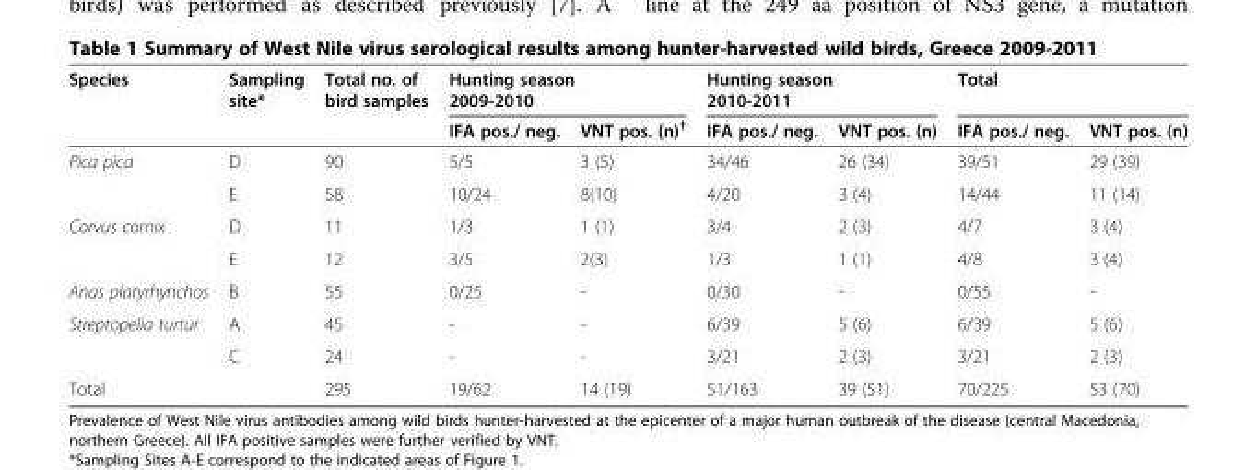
<table><thead><tr><td rowspan="2">Species</td><td rowspan="2">Sampling site*</td><td rowspan="2">Total no. of bird samples</td><td colspan="2">Hunting season 2009-2010</td><td colspan="2">Hunting season 2010-2011</td><td colspan="2">Total</td></tr><tr><td>IFA pos./ neg.</td><td>VNT pos. (n)<sup>†</sup></td><td>IFA pos./ neg.</td><td>VNT pos. (n)</td><td>IFA pos./ neg.</td><td>VNT pos. (n)</td></tr></thead><tbody><tr><td rowspan="2">Pica pica</td><td>D</td><td>90</td><td>5/5</td><td>3 (5)</td><td>34/46</td><td>26 (34)</td><td>39/51</td><td>29 (39)</td></tr><tr><td>E</td><td>58</td><td>10/24</td><td>8(10)</td><td>4/20</td><td>3 (4)</td><td>14/44</td><td>11 (14)</td></tr><tr><td rowspan="2">Corvus cornix</td><td>D</td><td>11</td><td>1/3</td><td>1 (1)</td><td>3/4</td><td>2 (3)</td><td>4/7</td><td>3 (4)</td></tr><tr><td>E</td><td>12</td><td>3/5</td><td>2(3)</td><td>1/3</td><td>1 (1)</td><td>4/8</td><td>3 (4)</td></tr><tr><td>Anas platyrhynchos</td><td>B</td><td>55</td><td>0/25</td><td>-</td><td>0/30</td><td>-</td><td>0/55</td><td>-</td></tr><tr><td rowspan="2">Streptopelia turtur</td><td>A</td><td>45</td><td>-</td><td>-</td><td>6/39</td><td>5 (6)</td><td>6/39</td><td>5 (6)</td></tr><tr><td>C</td><td>24</td><td>-</td><td>-</td><td>3/21</td><td>2 (3)</td><td>3/21</td><td>2 (3)</td></tr><tr><td>Total</td><td></td><td>295</td><td>19/62</td><td>14 (19)</td><td>51/163</td><td>39 (51)</td><td>70/225</td><td>53 (70)</td></tr></tbody></table>